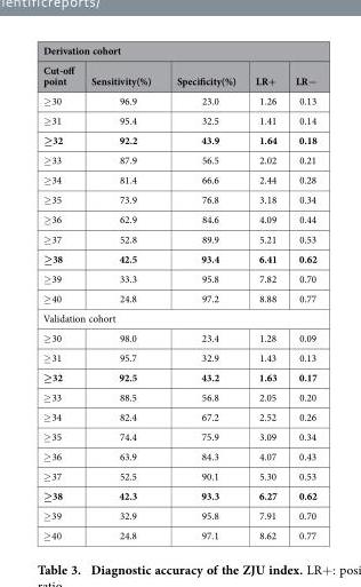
<table><thead><tr><td colspan="5">Derivation cohort</td></tr><tr><td>Cut-off point</td><td>Sensitivity(%)</td><td>Specificity(%)</td><td>LR+</td><td>LR−</td></tr></thead><tbody><tr><td>≥ 30</td><td>96.9</td><td>23.0</td><td>1.26</td><td>0.13</td></tr><tr><td>≥ 31</td><td>95.4</td><td>32.5</td><td>1.41</td><td>0.14</td></tr><tr><td>≥32</td><td>92.2</td><td>43.9</td><td>1.64</td><td>0.18</td></tr><tr><td>≥ 33</td><td>87.9</td><td>56.5</td><td>2.02</td><td>0.21</td></tr><tr><td>≥ 34</td><td>81.4</td><td>66.6</td><td>2.44</td><td>0.28</td></tr><tr><td>≥ 35</td><td>73.9</td><td>76.8</td><td>3.18</td><td>0.34</td></tr><tr><td>≥ 36</td><td>62.9</td><td>84.6</td><td>4.09</td><td>0.44</td></tr><tr><td>≥ 37</td><td>52.8</td><td>89.9</td><td>5.21</td><td>0.53</td></tr><tr><td>≥38</td><td>42.5</td><td>93.4</td><td>6.41</td><td>0.62</td></tr><tr><td>≥ 39</td><td>33.3</td><td>95.8</td><td>7.82</td><td>0.70</td></tr><tr><td>≥ 40</td><td>24.8</td><td>97.2</td><td>8.88</td><td>0.77</td></tr><tr><td colspan="5">Validation cohort</td></tr><tr><td>≥ 30</td><td>98.0</td><td>23.4</td><td>1.28</td><td>0.09</td></tr><tr><td>≥ 31</td><td>95.7</td><td>32.9</td><td>1.43</td><td>0.13</td></tr><tr><td>≥32</td><td>92.5</td><td>43.2</td><td>1.63</td><td>0.17</td></tr><tr><td>≥ 33</td><td>88.5</td><td>56.8</td><td>2.05</td><td>0.20</td></tr><tr><td>≥ 34</td><td>82.4</td><td>67.2</td><td>2.52</td><td>0.26</td></tr><tr><td>≥ 35</td><td>74.4</td><td>75.9</td><td>3.09</td><td>0.34</td></tr><tr><td>≥ 36</td><td>63.9</td><td>84.3</td><td>4.07</td><td>0.43</td></tr><tr><td>≥ 37</td><td>52.5</td><td>90.1</td><td>5.30</td><td>0.53</td></tr><tr><td>≥38</td><td>42.3</td><td>93.3</td><td>6.27</td><td>0.62</td></tr><tr><td>≥ 39</td><td>32.9</td><td>95.8</td><td>7.91</td><td>0.70</td></tr><tr><td>≥ 40</td><td>24.8</td><td>97.1</td><td>8.62</td><td>0.77</td></tr></tbody></table>